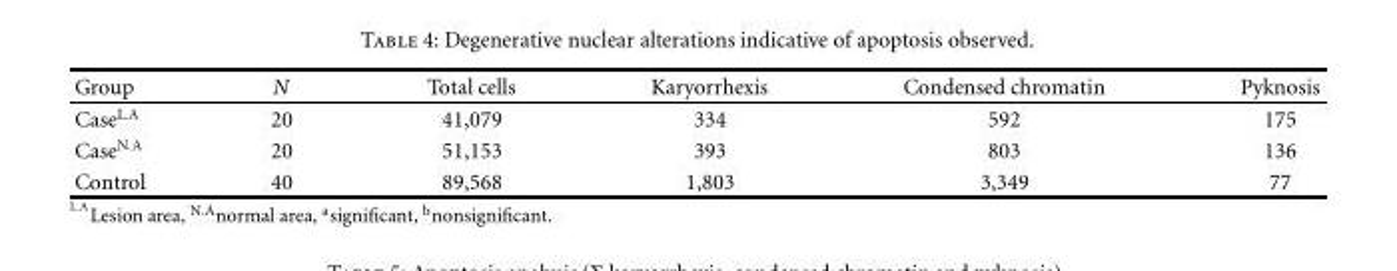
<table><thead><tr><td>Group</td><td>N</td><td>Total cells</td><td>Karyorrhexis</td><td>Condensed chromatin</td><td>Pyknosis</td></tr></thead><tbody><tr><td>Case<sup>L.A</sup></td><td>20</td><td>41,079</td><td>334</td><td>592</td><td>175</td></tr><tr><td>Case<sup>N.A</sup></td><td>20</td><td>51,153</td><td>393</td><td>803</td><td>136</td></tr><tr><td>Control</td><td>40</td><td>89,568</td><td>1,803</td><td>3,349</td><td>77</td></tr></tbody></table>